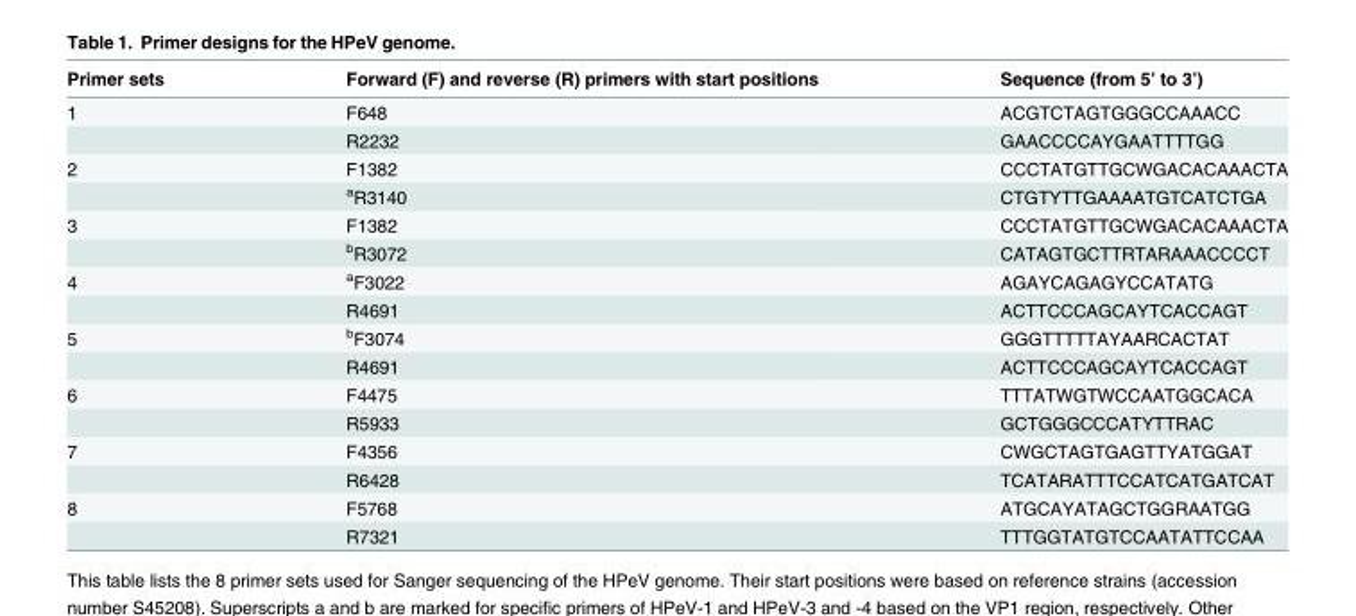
<table><thead><tr><td>Primer sets</td><td>Forward (F) and reverse (R) primers with start positions</td><td>Sequence (from 5’ to 3’)</td></tr></thead><tbody><tr><td rowspan="2">1</td><td>F648</td><td>ACGTCTAGTGGGCCAAACC</td></tr><tr><td>R2232</td><td>GAACCCCAYGAATTTTGG</td></tr><tr><td rowspan="2">2</td><td>F1382</td><td>CCCTATGTTGCWGACACAAACTA</td></tr><tr><td><sup>a</sup>R3140</td><td>CTGTYTTGAAAATGTCATCTGA</td></tr><tr><td rowspan="2">3</td><td>F1382</td><td>CCCTATGTTGCWGACACAAACTA</td></tr><tr><td><sup>b</sup>R3072</td><td>CATAGTGCTTRTARAAACCCCT</td></tr><tr><td rowspan="2">4</td><td><sup>a</sup>F3022</td><td>AGAYCAGAGYCCATATG</td></tr><tr><td>R4691</td><td>ACTTCCCAGCAYTCACCAGT</td></tr><tr><td rowspan="2">5</td><td><sup>b</sup>F3074</td><td>GGGTTTTTAYAARCACTAT</td></tr><tr><td>R4691</td><td>ACTTCCCAGCAYTCACCAGT</td></tr><tr><td rowspan="2">6</td><td>F4475</td><td>TTTATWGTWCCAATGGCACA</td></tr><tr><td>R5933</td><td>GCTGGGCCCATYTTRAC</td></tr><tr><td rowspan="2">7</td><td>F4356</td><td>CWGCTAGTGAGTTYATGGAT</td></tr><tr><td>R6428</td><td>TCATARATTTCCATCATGATCAT</td></tr><tr><td rowspan="2">8</td><td>F5768</td><td>ATGCAYATAGCTGGRAATGG</td></tr><tr><td>R7321</td><td>TTTGGTATGTCCAATATTCCAA</td></tr></tbody></table>